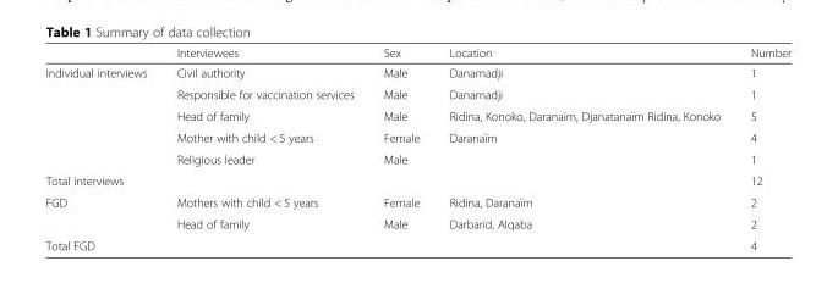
<table><thead><tr><td></td><td>Interviewees</td><td>Sex</td><td>Location</td><td>Number</td></tr></thead><tbody><tr><td rowspan="5">Individual interviews</td><td>Civil authority</td><td>Male</td><td>Danamadji</td><td>1</td></tr><tr><td>Responsible for vaccination services</td><td>Male</td><td>Danamadji</td><td>1</td></tr><tr><td>Head of family</td><td>Male</td><td>Ridina, Konoko, Daranaïm, Djanatanaïm Ridina, Konoko</td><td>5</td></tr><tr><td>Mother with child &lt; 5 years</td><td>Female</td><td>Daranaïm</td><td>4</td></tr><tr><td>Religious leader</td><td>Male</td><td></td><td>1</td></tr><tr><td>Total interviews</td><td></td><td></td><td></td><td>12</td></tr><tr><td rowspan="2">FGD</td><td>Mothers with child &lt; 5 years</td><td>Female</td><td>Ridina, Daranaïm</td><td>2</td></tr><tr><td>Head of family</td><td>Male</td><td>Darbarid, Alqaba</td><td>2</td></tr><tr><td>Total FGD</td><td></td><td></td><td></td><td>4</td></tr></tbody></table>